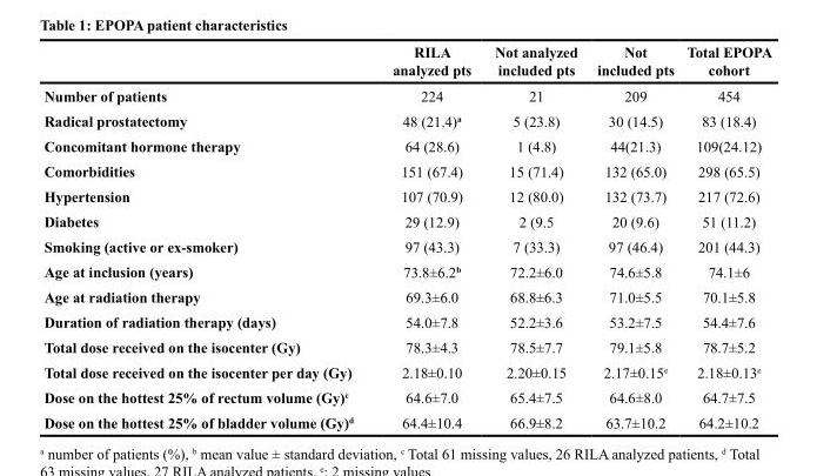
<table><thead><tr><td></td><td>RILA analyzed pts</td><td>Not analyzed included pts</td><td>Not included pts</td><td>Total EPOPA cohort</td></tr></thead><tbody><tr><td>Number of patients</td><td>224</td><td>21</td><td>209</td><td>454</td></tr><tr><td>Radical prostatectomy</td><td>48 (21.4)<sup>a</sup></td><td>5 (23.8)</td><td>30 (14.5)</td><td>83 (18.4)</td></tr><tr><td>Concomitant hormone therapy</td><td>64 (28.6)</td><td>1 (4.8)</td><td>44(21.3)</td><td>109(24.12)</td></tr><tr><td>Comorbidities</td><td>151 (67.4)</td><td>15 (71.4)</td><td>132 (65.0)</td><td>298 (65.5)</td></tr><tr><td>Hypertension</td><td>107 (70.9)</td><td>12 (80.0)</td><td>132 (73.7)</td><td>217 (72.6)</td></tr><tr><td>Diabetes</td><td>29 (12.9)</td><td>2 (9.5</td><td>20 (9.6)</td><td>51 (11.2)</td></tr><tr><td>Smoking (active or ex-smoker)</td><td>97 (43.3)</td><td>7 (33.3)</td><td>97 (46.4)</td><td>201 (44.3)</td></tr><tr><td>Age at inclusion (years)</td><td>73.8±6.2<sup>b</sup></td><td>72.2±6.0</td><td>74.6±5.8</td><td>74.1±6</td></tr><tr><td>Age at radiation therapy</td><td>69.3±6.0</td><td>68.8±6.3</td><td>71.0±5.5</td><td>70.1±5.8</td></tr><tr><td>Duration of radiation therapy (days)</td><td>54.0±7.8</td><td>52.2±3.6</td><td>53.2±7.5</td><td>54.4±7.6</td></tr><tr><td>Total dose received on the isocenter (Gy)</td><td>78.3±4.3</td><td>78.5±7.7</td><td>79.1±5.8</td><td>78.7±5.2</td></tr><tr><td>Total dose received on the isocenter per day (Gy)</td><td>2.18±0.10</td><td>2.20±0.15</td><td>2.17±0.15<sup>e</sup></td><td>2.18±0.13<sup>e</sup></td></tr><tr><td>Dose on the hottest 25% of rectum volume (Gy)<sup>c</sup></td><td>64.6±7.0</td><td>65.4±7.5</td><td>64.6±8.0</td><td>64.7±7.5</td></tr><tr><td>Dose on the hottest 25% of bladder volume (Gy)<sup>d</sup></td><td>64.4±10.4</td><td>66.9±8.2</td><td>63.7±10.2</td><td>64.2±10.2</td></tr></tbody></table>